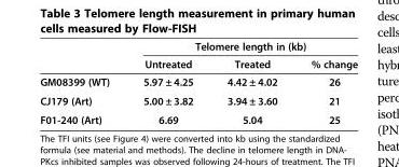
<table><thead><tr><td rowspan="2"></td><td colspan="3">Telomere length in (kb)</td></tr><tr><td>Untreated</td><td>Treated</td><td>% change</td></tr></thead><tbody><tr><td>GM08399 (WT)</td><td>5.97 ± 4.25</td><td>4.42 ± 4.02</td><td>26</td></tr><tr><td>CJ179 (Art)</td><td>5.00 ± 3.82</td><td>3.94 ± 3.60</td><td>21</td></tr><tr><td>F01-240 (Art)</td><td>6.69</td><td>5.04</td><td>25</td></tr></tbody></table>